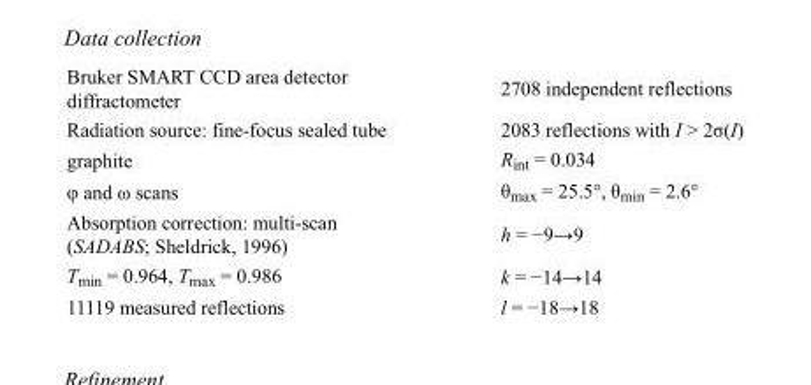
<table><tbody><tr><td>Bruker SMART CCD area detector diffractometer</td><td>2708 independent reflections</td></tr><tr><td>Radiation source: fine-focus sealed tube</td><td>2083 reflections with I &gt; 2σ(I)</td></tr><tr><td>graphite</td><td>R<sub>int</sub> = 0.034</td></tr><tr><td>φ and ω scans</td><td>θ<sub>max</sub> = 25.5°, θ<sub>min</sub> = 2.6°</td></tr><tr><td>Absorption correction: multi-scan (SADABS; Sheldrick, 1996)</td><td>h = −9→9</td></tr><tr><td>T<sub>min</sub> = 0.964, T<sub>max</sub> = 0.986</td><td>k = −14→14</td></tr><tr><td>11119 measured reflections</td><td>l = −18→18</td></tr></tbody></table>